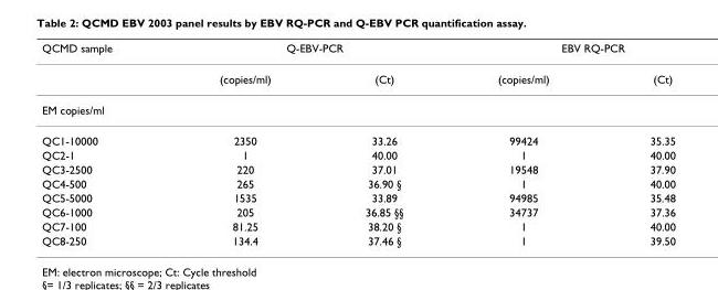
<table><thead><tr><td rowspan="2">QCMD sample</td><td colspan="2">Q-EBV-PCR</td><td colspan="2">EBV RQ-PCR</td></tr><tr><td>(copies/ml)</td><td>(Ct)</td><td>(copies/ml)</td><td>(Ct)</td></tr></thead><tbody><tr><td colspan="5">EM copies/ml</td></tr><tr><td>QC1-10000</td><td>2350</td><td>33.26</td><td>99424</td><td>35.35</td></tr><tr><td>QC2-1</td><td>1</td><td>40.00</td><td>1</td><td>40.00</td></tr><tr><td>QC3-2500</td><td>220</td><td>37.01</td><td>19548</td><td>37.90</td></tr><tr><td>QC4-500</td><td>265</td><td>36.90 §</td><td>1</td><td>40.00</td></tr><tr><td>QC5-5000</td><td>1535</td><td>33.89</td><td>94985</td><td>35.48</td></tr><tr><td>QC6-1000</td><td>205</td><td>36.85 §§</td><td>34737</td><td>37.36</td></tr><tr><td>QC7-100</td><td>81.25</td><td>38.20 §</td><td>1</td><td>40.00</td></tr><tr><td>QC8-250</td><td>134.4</td><td>37.46 §</td><td>1</td><td>39.50</td></tr></tbody></table>